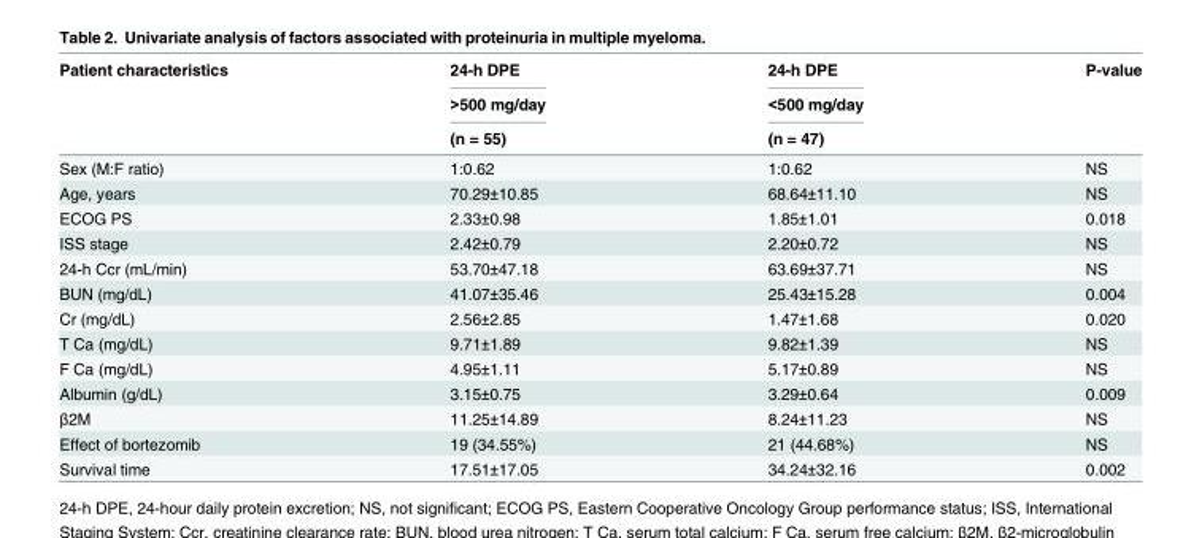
<table><thead><tr><td rowspan="3">Patient characteristics</td><td rowspan="3">24-h DPE &gt;500 mg/day (n = 55)</td><td rowspan="3">24-h DPE &lt;500 mg/day (n = 47)</td><td rowspan="3">P-value</td></tr><tr></tr><tr></tr></thead><tbody><tr><td>Sex (M:F ratio)</td><td>1:0.62</td><td>1:0.62</td><td>NS</td></tr><tr><td>Age, years</td><td>70.29±10.85</td><td>68.64±11.10</td><td>NS</td></tr><tr><td>ECOG PS</td><td>2.33±0.98</td><td>1.85±1.01</td><td>0.018</td></tr><tr><td>ISS stage</td><td>2.42±0.79</td><td>2.20±0.72</td><td>NS</td></tr><tr><td>24-h Ccr (mL/min)</td><td>53.70±47.18</td><td>63.69±37.71</td><td>NS</td></tr><tr><td>BUN (mg/dL)</td><td>41.07±35.46</td><td>25.43±15.28</td><td>0.004</td></tr><tr><td>Cr (mg/dL)</td><td>2.56±2.85</td><td>1.47±1.68</td><td>0.020</td></tr><tr><td>T Ca (mg/dL)</td><td>9.71±1.89</td><td>9.82±1.39</td><td>NS</td></tr><tr><td>F Ca (mg/dL)</td><td>4.95±1.11</td><td>5.17±0.89</td><td>NS</td></tr><tr><td>Albumin (g/dL)</td><td>3.15±0.75</td><td>3.29±0.64</td><td>0.009</td></tr><tr><td>β2M</td><td>11.25±14.89</td><td>8.24±11.23</td><td>NS</td></tr><tr><td>Effect of bortezomib</td><td>19 (34.55%)</td><td>21 (44.68%)</td><td>NS</td></tr><tr><td>Survival time</td><td>17.51±17.05</td><td>34.24±32.16</td><td>0.002</td></tr></tbody></table>